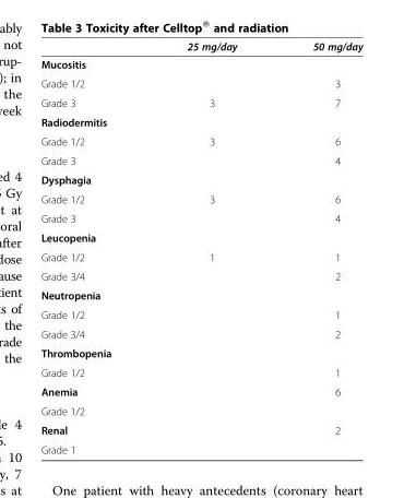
<table><thead><tr><td></td><td>25 mg/day</td><td>50 mg/day</td></tr></thead><tbody><tr><td colspan="3">Mucositis</td></tr><tr><td>Grade 1/2</td><td></td><td>3</td></tr><tr><td>Grade 3</td><td>3</td><td>7</td></tr><tr><td colspan="3">Radiodermitis</td></tr><tr><td>Grade 1/2</td><td>3</td><td>6</td></tr><tr><td>Grade 3</td><td></td><td>4</td></tr><tr><td colspan="3">Dysphagia</td></tr><tr><td>Grade 1/2</td><td>3</td><td>6</td></tr><tr><td>Grade 3</td><td></td><td>4</td></tr><tr><td colspan="3">Leucopenia</td></tr><tr><td>Grade 1/2</td><td>1</td><td>1</td></tr><tr><td>Grade 3/4</td><td></td><td>2</td></tr><tr><td colspan="3">Neutropenia</td></tr><tr><td>Grade 1/2</td><td></td><td>1</td></tr><tr><td>Grade 3/4</td><td></td><td>2</td></tr><tr><td colspan="3">Thrombopenia</td></tr><tr><td>Grade 1/2</td><td></td><td>1</td></tr><tr><td>Anemia</td><td></td><td>6</td></tr><tr><td colspan="3">Grade 1/2</td></tr><tr><td>Renal</td><td></td><td>2</td></tr><tr><td>Grade 1</td><td></td><td></td></tr></tbody></table>